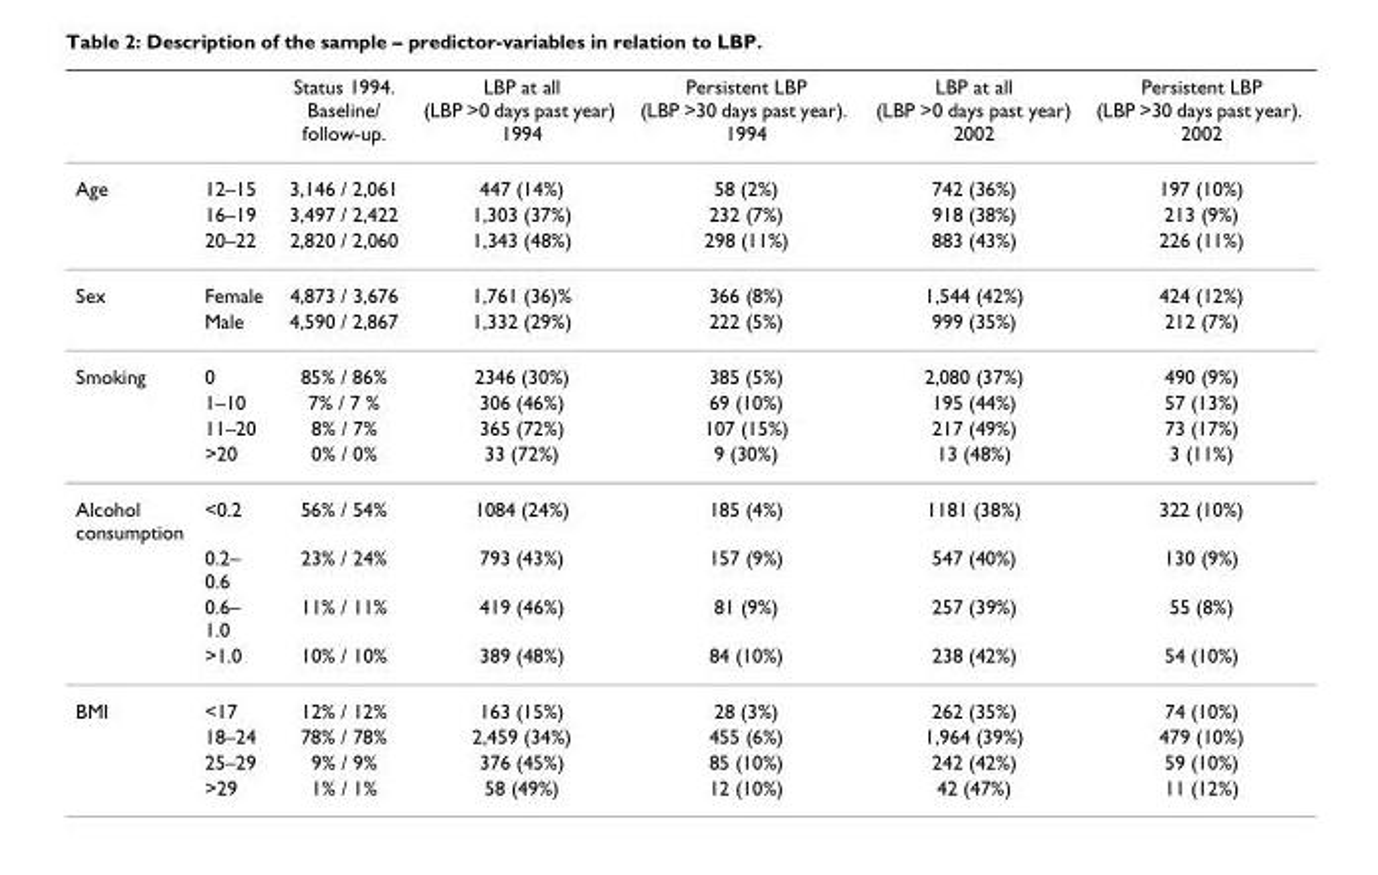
<table><thead><tr><td></td><td></td><td>Status 1994. Baseline/ follow-up.</td><td>LBP at all (LBP &gt;0 days past year) 1994</td><td>Persistent LBP (LBP &gt;30 days past year). 1994</td><td>LBP at all (LBP &gt;0 days past year) 2002</td><td>Persistent LBP (LBP &gt;30 days past year). 2002</td></tr></thead><tbody><tr><td rowspan="3">Age</td><td>12–15</td><td>3,146 / 2,061</td><td>447 (14%)</td><td>58 (2%)</td><td>742 (36%)</td><td>197 (10%)</td></tr><tr><td>16–19</td><td>3,497 / 2,422</td><td>1,303 (37%)</td><td>232 (7%)</td><td>918 (38%)</td><td>213 (9%)</td></tr><tr><td>20–22</td><td>2,820 / 2,060</td><td>1,343 (48%)</td><td>298 (11%)</td><td>883 (43%)</td><td>226 (11%)</td></tr><tr><td rowspan="2">Sex</td><td>Female</td><td>4,873 / 3,676</td><td>1,761 (36)%</td><td>366 (8%)</td><td>1,544 (42%)</td><td>424 (12%)</td></tr><tr><td>Male</td><td>4,590 / 2,867</td><td>1,332 (29%)</td><td>222 (5%)</td><td>999 (35%)</td><td>212 (7%)</td></tr><tr><td rowspan="4">Smoking</td><td>0</td><td>85% / 86%</td><td>2346 (30%)</td><td>385 (5%)</td><td>2,080 (37%)</td><td>490 (9%)</td></tr><tr><td>1–10</td><td>7% / 7 %</td><td>306 (46%)</td><td>69 (10%)</td><td>195 (44%)</td><td>57 (13%)</td></tr><tr><td>11–20</td><td>8% / 7%</td><td>365 (72%)</td><td>107 (15%)</td><td>217 (49%)</td><td>73 (17%)</td></tr><tr><td>&gt;20</td><td>0% / 0%</td><td>33 (72%)</td><td>9 (30%)</td><td>13 (48%)</td><td>3 (11%)</td></tr><tr><td rowspan="4">Alcohol consumption</td><td>&lt;0.2</td><td>56% / 54%</td><td>1084 (24%)</td><td>185 (4%)</td><td>1181 (38%)</td><td>322 (10%)</td></tr><tr><td>0.2– 0.6</td><td>23% / 24%</td><td>793 (43%)</td><td>157 (9%)</td><td>547 (40%)</td><td>130 (9%)</td></tr><tr><td>0.6– 1.0</td><td>11% / 11%</td><td>419 (46%)</td><td>81 (9%)</td><td>257 (39%)</td><td>55 (8%)</td></tr><tr><td>&gt;1.0</td><td>10% / 10%</td><td>389 (48%)</td><td>84 (10%)</td><td>238 (42%)</td><td>54 (10%)</td></tr><tr><td rowspan="4">BMI</td><td>&lt;17</td><td>12% / 12%</td><td>163 (15%)</td><td>28 (3%)</td><td>262 (35%)</td><td>74 (10%)</td></tr><tr><td>18–24</td><td>78% / 78%</td><td>2,459 (34%)</td><td>455 (6%)</td><td>1,964 (39%)</td><td>479 (10%)</td></tr><tr><td>25–29</td><td>9% / 9%</td><td>376 (45%)</td><td>85 (10%)</td><td>242 (42%)</td><td>59 (10%)</td></tr><tr><td>&gt;29</td><td>1% / 1%</td><td>58 (49%)</td><td>12 (10%)</td><td>42 (47%)</td><td>11 (12%)</td></tr></tbody></table>